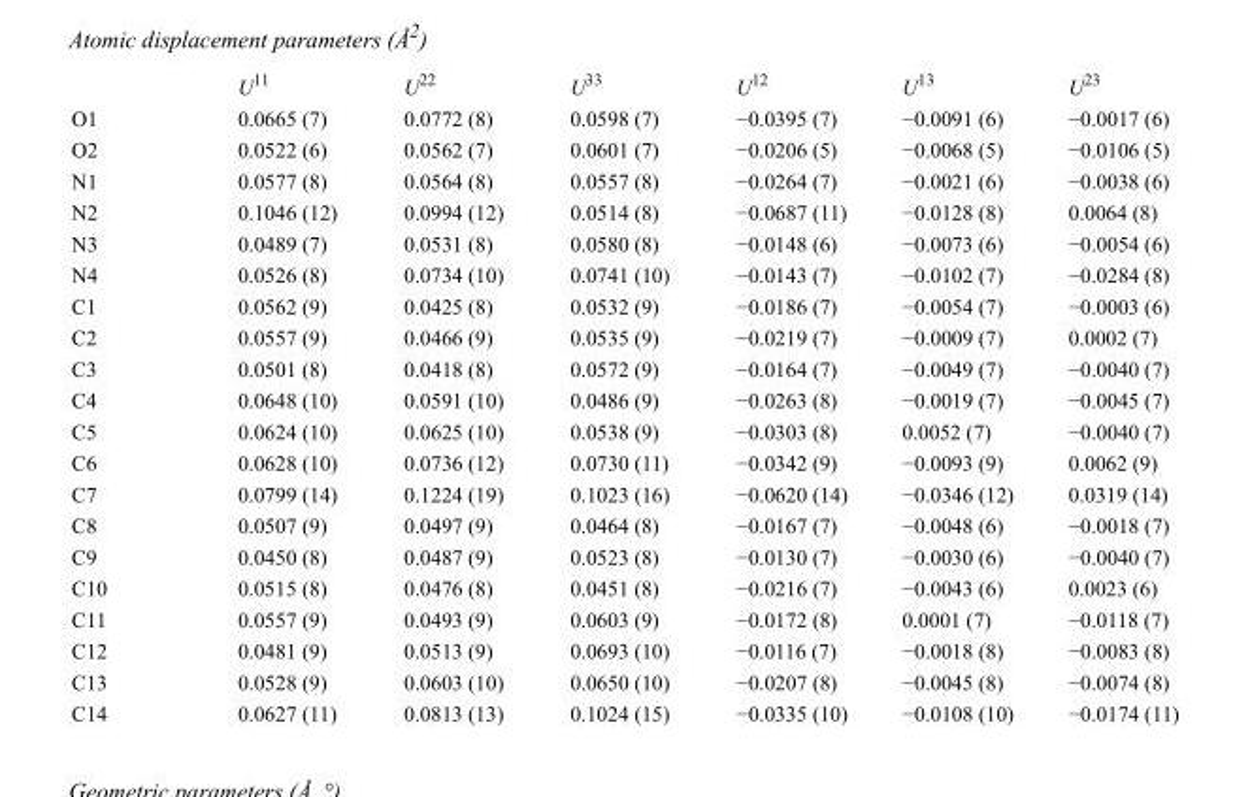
<table><thead><tr><td></td><td>U<sup>11</sup></td><td>U<sup>22</sup></td><td>U<sup>33</sup></td><td>U<sup>12</sup></td><td>U<sup>13</sup></td><td>U<sup>23</sup></td></tr></thead><tbody><tr><td>O1</td><td>0.0665 (7)</td><td>0.0772 (8)</td><td>0.0598 (7)</td><td>−0.0395 (7)</td><td>−0.0091 (6)</td><td>−0.0017 (6)</td></tr><tr><td>O2</td><td>0.0522 (6)</td><td>0.0562 (7)</td><td>0.0601 (7)</td><td>−0.0206 (5)</td><td>−0.0068 (5)</td><td>−0.0106 (5)</td></tr><tr><td>N1</td><td>0.0577 (8)</td><td>0.0564 (8)</td><td>0.0557 (8)</td><td>−0.0264 (7)</td><td>−0.0021 (6)</td><td>−0.0038 (6)</td></tr><tr><td>N2</td><td>0.1046 (12)</td><td>0.0994 (12)</td><td>0.0514 (8)</td><td>−0.0687 (11)</td><td>−0.0128 (8)</td><td>0.0064 (8)</td></tr><tr><td>N3</td><td>0.0489 (7)</td><td>0.0531 (8)</td><td>0.0580 (8)</td><td>−0.0148 (6)</td><td>−0.0073 (6)</td><td>−0.0054 (6)</td></tr><tr><td>N4</td><td>0.0526 (8)</td><td>0.0734 (10)</td><td>0.0741 (10)</td><td>−0.0143 (7)</td><td>−0.0102 (7)</td><td>−0.0284 (8)</td></tr><tr><td>C1</td><td>0.0562 (9)</td><td>0.0425 (8)</td><td>0.0532 (9)</td><td>−0.0186 (7)</td><td>−0.0054 (7)</td><td>−0.0003 (6)</td></tr><tr><td>C2</td><td>0.0557 (9)</td><td>0.0466 (9)</td><td>0.0535 (9)</td><td>−0.0219 (7)</td><td>−0.0009 (7)</td><td>0.0002 (7)</td></tr><tr><td>C3</td><td>0.0501 (8)</td><td>0.0418 (8)</td><td>0.0572 (9)</td><td>−0.0164 (7)</td><td>−0.0049 (7)</td><td>−0.0040 (7)</td></tr><tr><td>C4</td><td>0.0648 (10)</td><td>0.0591 (10)</td><td>0.0486 (9)</td><td>−0.0263 (8)</td><td>−0.0019 (7)</td><td>−0.0045 (7)</td></tr><tr><td>C5</td><td>0.0624 (10)</td><td>0.0625 (10)</td><td>0.0538 (9)</td><td>−0.0303 (8)</td><td>0.0052 (7)</td><td>−0.0040 (7)</td></tr><tr><td>C6</td><td>0.0628 (10)</td><td>0.0736 (12)</td><td>0.0730 (11)</td><td>−0.0342 (9)</td><td>−0.0093 (9)</td><td>0.0062 (9)</td></tr><tr><td>C7</td><td>0.0799 (14)</td><td>0.1224 (19)</td><td>0.1023 (16)</td><td>−0.0620 (14)</td><td>−0.0346 (12)</td><td>0.0319 (14)</td></tr><tr><td>C8</td><td>0.0507 (9)</td><td>0.0497 (9)</td><td>0.0464 (8)</td><td>−0.0167 (7)</td><td>−0.0048 (6)</td><td>−0.0018 (7)</td></tr><tr><td>C9</td><td>0.0450 (8)</td><td>0.0487 (9)</td><td>0.0523 (8)</td><td>−0.0130 (7)</td><td>−0.0030 (6)</td><td>−0.0040 (7)</td></tr><tr><td>C10</td><td>0.0515 (8)</td><td>0.0476 (8)</td><td>0.0451 (8)</td><td>−0.0216 (7)</td><td>−0.0043 (6)</td><td>0.0023 (6)</td></tr><tr><td>C11</td><td>0.0557 (9)</td><td>0.0493 (9)</td><td>0.0603 (9)</td><td>−0.0172 (8)</td><td>0.0001 (7)</td><td>−0.0118 (7)</td></tr><tr><td>C12</td><td>0.0481 (9)</td><td>0.0513 (9)</td><td>0.0693 (10)</td><td>−0.0116 (7)</td><td>−0.0018 (8)</td><td>−0.0083 (8)</td></tr><tr><td>C13</td><td>0.0528 (9)</td><td>0.0603 (10)</td><td>0.0650 (10)</td><td>−0.0207 (8)</td><td>−0.0045 (8)</td><td>−0.0074 (8)</td></tr><tr><td>C14</td><td>0.0627 (11)</td><td>0.0813 (13)</td><td>0.1024 (15)</td><td>−0.0335 (10)</td><td>−0.0108 (10)</td><td>−0.0174 (11)</td></tr></tbody></table>